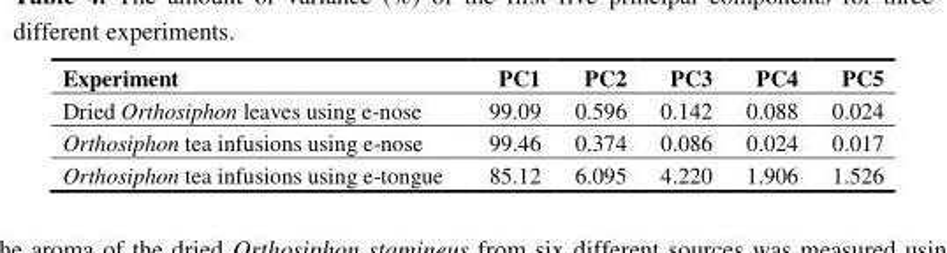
<table><thead><tr><td>Experiment</td><td>PC1</td><td>PC2</td><td>PC3</td><td>PC4</td><td>PC5</td></tr></thead><tbody><tr><td>Dried Orthosiphon leaves using e-nose</td><td>99.09</td><td>0.596</td><td>0.142</td><td>0.088</td><td>0.024</td></tr><tr><td>Orthosiphon tea infusions using e-nose</td><td>99.46</td><td>0.374</td><td>0.086</td><td>0.024</td><td>0.017</td></tr><tr><td>Orthosiphon tea infusions using e-tongue</td><td>85.12</td><td>6.095</td><td>4.220</td><td>1.906</td><td>1.526</td></tr></tbody></table>